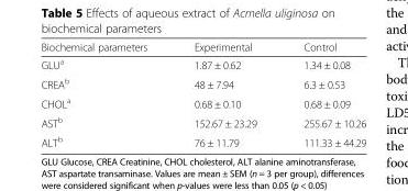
<table><thead><tr><td>Biochemical parameters</td><td>Experimental</td><td>Control</td></tr></thead><tbody><tr><td>GLU<sup>a</sup></td><td>1.87 ± 0.62</td><td>1.34 ± 0.08</td></tr><tr><td>CREA<sup>b</sup></td><td>48 ± 7.94</td><td>6.3 ± 0.53</td></tr><tr><td>CHOL<sup>a</sup></td><td>0.68 ± 0.10</td><td>0.68 ± 0.09</td></tr><tr><td>AST<sup>b</sup></td><td>152.67 ± 23.29</td><td>255.67 ± 10.26</td></tr><tr><td>ALT<sup>b</sup></td><td>76 ± 11.79</td><td>111.33 ± 44.29</td></tr></tbody></table>